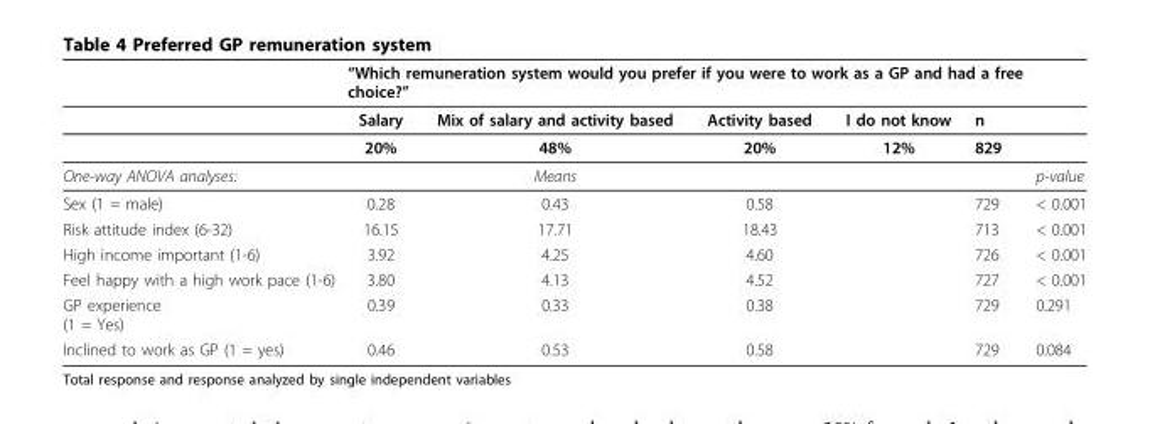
<table><thead><tr><td rowspan="2"></td><td colspan="5">“Which remuneration system would you prefer if you were to work as a GP and had a free choice?”</td><td rowspan="2"></td></tr><tr><td>Salary</td><td>Mix of salary and activity based</td><td>Activity based</td><td>I do not know</td><td>n</td></tr></thead><tbody><tr><td></td><td>20%</td><td>48%</td><td>20%</td><td>12%</td><td>829</td><td></td></tr><tr><td>One-way ANOVA analyses:</td><td></td><td>Means</td><td></td><td></td><td></td><td>p-value</td></tr><tr><td>Sex (1 = male)</td><td>0.28</td><td>0.43</td><td>0.58</td><td></td><td>729</td><td>&lt; 0.001</td></tr><tr><td>Risk attitude index (6-32)</td><td>16.15</td><td>17.71</td><td>18.43</td><td></td><td>713</td><td>&lt; 0.001</td></tr><tr><td>High income important (1-6)</td><td>3.92</td><td>4.25</td><td>4.60</td><td></td><td>726</td><td>&lt; 0.001</td></tr><tr><td>Feel happy with a high work pace (1-6)</td><td>3.80</td><td>4.13</td><td>4.52</td><td></td><td>727</td><td>&lt; 0.001</td></tr><tr><td>GP experience (1 = Yes)</td><td>0.39</td><td>0.33</td><td>0.38</td><td></td><td>729</td><td>0.291</td></tr><tr><td>Inclined to work as GP (1 = yes)</td><td>0.46</td><td>0.53</td><td>0.58</td><td></td><td>729</td><td>0.084</td></tr></tbody></table>